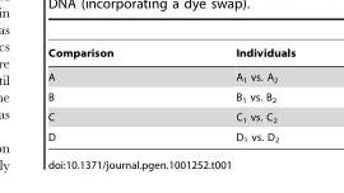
<table><thead><tr><td>Comparison</td><td>Individuals</td></tr></thead><tbody><tr><td>A</td><td>A<sub>1</sub> vs. A<sub>2</sub></td></tr><tr><td>B</td><td>B<sub>1</sub> vs. B<sub>2</sub></td></tr><tr><td>C</td><td>C<sub>1</sub> vs. C<sub>2</sub></td></tr><tr><td>D</td><td>D<sub>1</sub> vs. D<sub>2</sub></td></tr></tbody></table>